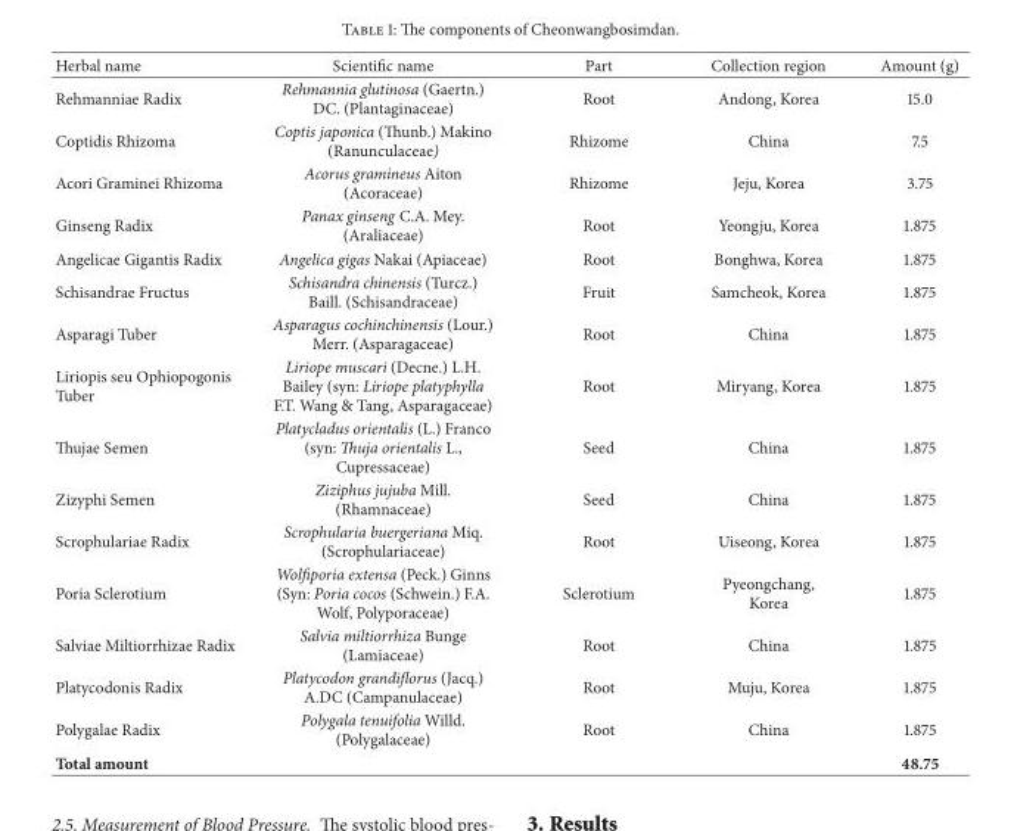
<table><thead><tr><td>Herbal name</td><td>Scientific name</td><td>Part</td><td>Collection region</td><td>Amount (g)</td></tr></thead><tbody><tr><td>Rehmanniae Radix</td><td>Rehmannia glutinosa (Gaertn.) DC. (Plantaginaceae)</td><td>Root</td><td>Andong, Korea</td><td>15.0</td></tr><tr><td>Coptidis Rhizoma</td><td>Coptis japonica (Thunb.) Makino (Ranunculaceae)</td><td>Rhizome</td><td>China</td><td>7.5</td></tr><tr><td>Acori Graminei Rhizoma</td><td>Acorus gramineus Aiton (Acoraceae)</td><td>Rhizome</td><td>Jeju, Korea</td><td>3.75</td></tr><tr><td>Ginseng Radix</td><td>Panax ginseng C.A. Mey. (Araliaceae)</td><td>Root</td><td>Yeongju, Korea</td><td>1.875</td></tr><tr><td>Angelicae Gigantis Radix</td><td>Angelica gigas Nakai (Apiaceae)</td><td>Root</td><td>Bonghwa, Korea</td><td>1.875</td></tr><tr><td>Schisandrae Fructus</td><td>Schisandra chinensis (Turcz.) Baill. (Schisandraceae)</td><td>Fruit</td><td>Samcheok, Korea</td><td>1.875</td></tr><tr><td>Asparagi Tuber</td><td>Asparagus cochinchinensis (Lour.) Merr. (Asparagaceae)</td><td>Root</td><td>China</td><td>1.875</td></tr><tr><td>Liriopis seu Ophiopogonis Tuber</td><td>Liriope muscari (Decne.) L.H. Bailey (syn: Liriope platyphylla F.T. Wang &amp; Tang, Asparagaceae)</td><td>Root</td><td>Miryang, Korea</td><td>1.875</td></tr><tr><td>Thujae Semen</td><td>Platycladus orientalis (L.) Franco (syn: Thuja orientalis L., Cupressaceae)</td><td>Seed</td><td>China</td><td>1.875</td></tr><tr><td>Zizyphi Semen</td><td>Ziziphus jujuba Mill. (Rhamnaceae)</td><td>Seed</td><td>China</td><td>1.875</td></tr><tr><td>Scrophulariae Radix</td><td>Scrophularia buergeriana Miq. (Scrophulariaceae)</td><td>Root</td><td>Uiseong, Korea</td><td>1.875</td></tr><tr><td>Poria Sclerotium</td><td>Wolfiporia extensa (Peck.) Ginns (Syn: Poria cocos (Schwein.) F.A. Wolf, Polyporaceae)</td><td>Sclerotium</td><td>Pyeongchang, Korea</td><td>1.875</td></tr><tr><td>Salviae Miltiorrhizae Radix</td><td>Salvia miltiorrhiza Bunge (Lamiaceae)</td><td>Root</td><td>China</td><td>1.875</td></tr><tr><td>Platycodonis Radix</td><td>Platycodon grandiflorus (Jacq.) A.DC (Campanulaceae)</td><td>Root</td><td>Muju, Korea</td><td>1.875</td></tr><tr><td>Polygalae Radix</td><td>Polygala tenuifolia Willd. (Polygalaceae)</td><td>Root</td><td>China</td><td>1.875</td></tr><tr><td>Total amount</td><td></td><td></td><td></td><td>48.75</td></tr></tbody></table>